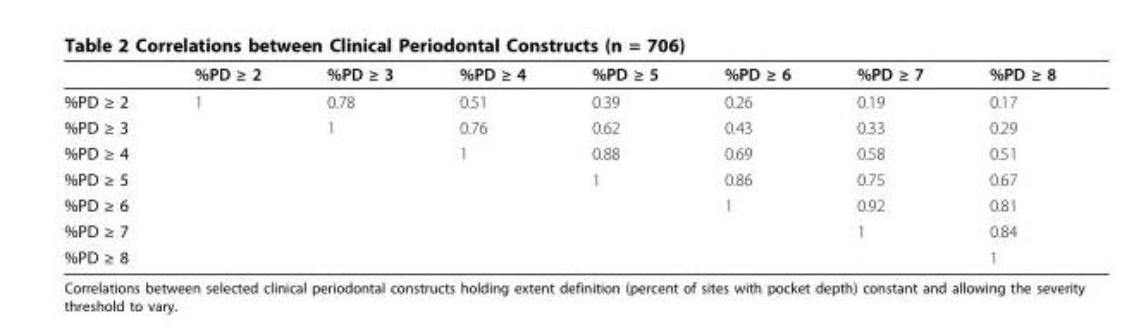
<table><thead><tr><td></td><td>%PD ≥ 2</td><td>%PD ≥ 3</td><td>%PD ≥ 4</td><td>%PD ≥ 5</td><td>%PD ≥ 6</td><td>%PD ≥ 7</td><td>%PD ≥ 8</td></tr></thead><tbody><tr><td>%PD ≥ 2</td><td>1</td><td>0.78</td><td>0.51</td><td>0.39</td><td>0.26</td><td>0.19</td><td>0.17</td></tr><tr><td>%PD ≥ 3</td><td></td><td>1</td><td>0.76</td><td>0.62</td><td>0.43</td><td>0.33</td><td>0.29</td></tr><tr><td>%PD ≥ 4</td><td></td><td></td><td>1</td><td>0.88</td><td>0.69</td><td>0.58</td><td>0.51</td></tr><tr><td>%PD ≥ 5</td><td></td><td></td><td></td><td>1</td><td>0.86</td><td>0.75</td><td>0.67</td></tr><tr><td>%PD ≥ 6</td><td></td><td></td><td></td><td></td><td>1</td><td>0.92</td><td>0.81</td></tr><tr><td>%PD ≥ 7</td><td></td><td></td><td></td><td></td><td></td><td>1</td><td>0.84</td></tr><tr><td>%PD ≥ 8</td><td></td><td></td><td></td><td></td><td></td><td></td><td>1</td></tr></tbody></table>